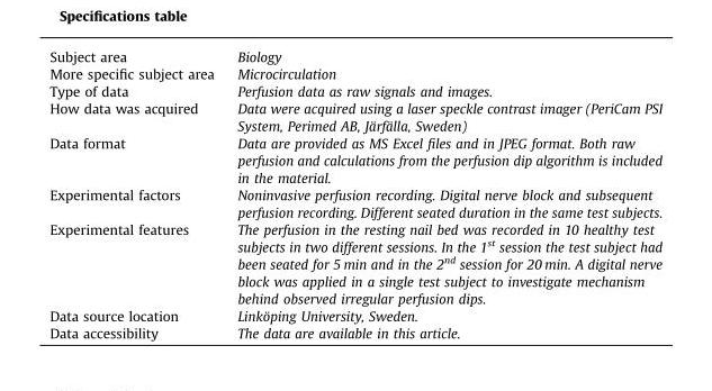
<table><tbody><tr><td>Subject area</td><td>Biology</td></tr><tr><td>More specific subject area</td><td>Microcirculation</td></tr><tr><td>Type of data</td><td>Perfusion data as raw signals and images.</td></tr><tr><td>How data was acquired</td><td>Data were acquired using a laser speckle contrast imager (PeriCam PSI System, Perimed AB, Järfälla, Sweden)</td></tr><tr><td>Data format</td><td>Data are provided as MS Excel files and in JPEG format. Both raw perfusion and calculations from the perfusion dip algorithm is included in the material.</td></tr><tr><td>Experimental factors</td><td>Noninvasive perfusion recording. Digital nerve block and subsequent perfusion recording. Different seated duration in the same test subjects.</td></tr><tr><td>Experimental features</td><td>The perfusion in the resting nail bed was recorded in 10 healthy test subjects in two different sessions. In the 1<sup>st</sup> session the test subject had been seated for 5 min and in the 2<sup>nd</sup> session for 20 min. A digital nerve block was applied in a single test subject to investigate mechanism behind observed irregular perfusion dips.</td></tr><tr><td>Data source location</td><td>Linköping University, Sweden.</td></tr><tr><td>Data accessibility</td><td>The data are available in this article.</td></tr></tbody></table>